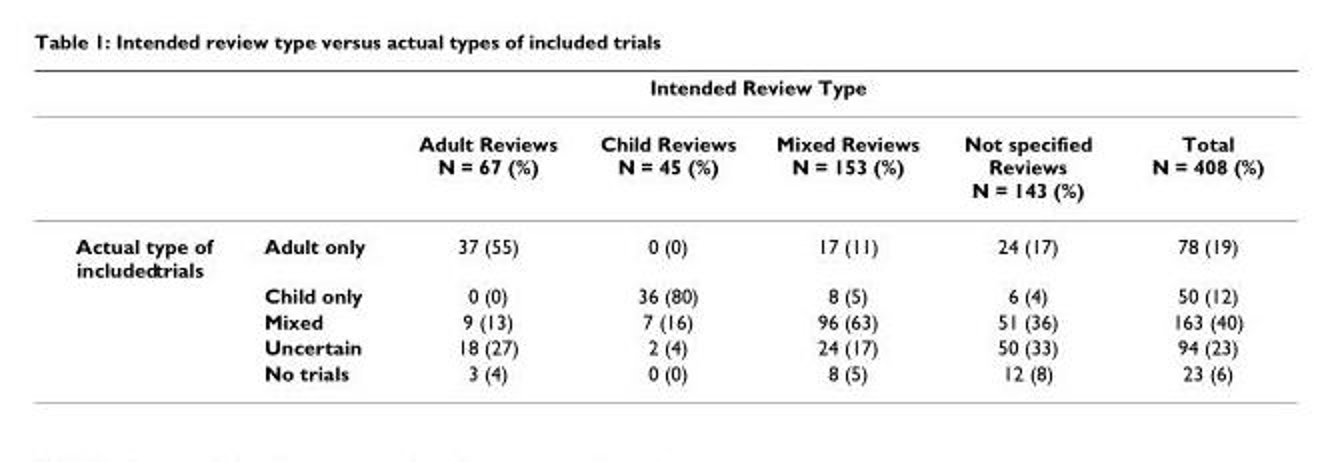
<table><thead><tr><td rowspan="2"></td><td rowspan="2"></td><td colspan="4">Intended Review Type</td><td rowspan="2">Total N = 408 (%)</td></tr><tr><td>Adult Reviews N = 67 (%)</td><td>Child Reviews N = 45 (%)</td><td>Mixed Reviews N = 153 (%)</td><td>Not specified Reviews N = 143 (%)</td></tr></thead><tbody><tr><td rowspan="5">Actual type of included trials</td><td>Adult only</td><td>37 (55)</td><td>0 (0)</td><td>17 (11)</td><td>24 (17)</td><td>78 (19)</td></tr><tr><td>Child only</td><td>0 (0)</td><td>36 (80)</td><td>8 (5)</td><td>6 (4)</td><td>50 (12)</td></tr><tr><td>Mixed</td><td>9 (13)</td><td>7 (16)</td><td>96 (63)</td><td>51 (36)</td><td>163 (40)</td></tr><tr><td>Uncertain</td><td>18 (27)</td><td>2 (4)</td><td>24 (17)</td><td>50 (33)</td><td>94 (23)</td></tr><tr><td>No trials</td><td>3 (4)</td><td>0 (0)</td><td>8 (5)</td><td>12 (8)</td><td>23 (6)</td></tr></tbody></table>